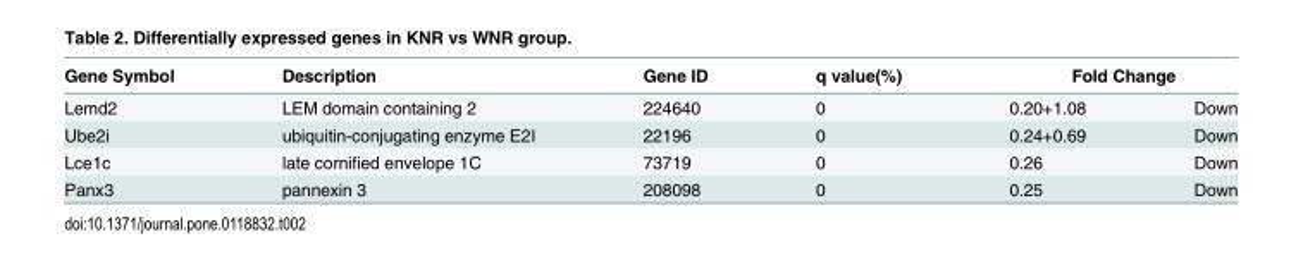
<table><thead><tr><td rowspan="2">Gene Symbol Lemd2</td><td rowspan="2">Description LEM domain containing 2</td><td rowspan="2">Gene ID 224640</td><td rowspan="2">q value(%) 0</td><td colspan="2">Fold Change</td></tr><tr><td>0.20+1.08</td><td>Down</td></tr></thead><tbody><tr><td>Ube2i</td><td>ubiquitin-conjugating enzyme E2I</td><td>22196</td><td>0</td><td>0.24+0.69</td><td>Down</td></tr><tr><td>Lce1c</td><td>late cornified envelope 1C</td><td>73719</td><td>0</td><td>0.26</td><td>Down</td></tr><tr><td>Panx3</td><td>pannexin 3</td><td>208098</td><td>0</td><td>0.25</td><td>Down</td></tr></tbody></table>